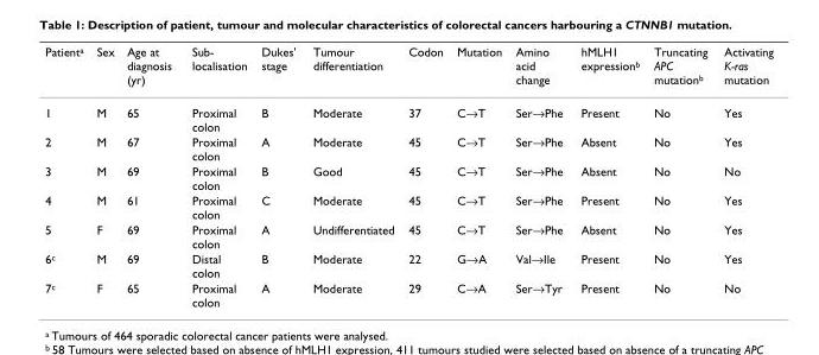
<table><thead><tr><td>Patienta</td><td>Sex</td><td>Age at diagnosis (yr)</td><td>Sub- localisation</td><td>Dukes&#x27; stage</td><td>Tumour differentiation</td><td>Codon</td><td>Mutation</td><td>Amino acid change</td><td>hMLH1 expressionb</td><td>Truncating APC mutationb</td><td>Activating K-ras mutation</td></tr></thead><tbody><tr><td>1</td><td>M</td><td>65</td><td>Proximal colon</td><td>B</td><td>Moderate</td><td>37</td><td>C→T</td><td>Ser→Phe</td><td>Present</td><td>No</td><td>Yes</td></tr><tr><td>2</td><td>M</td><td>67</td><td>Proximal colon</td><td>A</td><td>Moderate</td><td>45</td><td>C→T</td><td>Ser→Phe</td><td>Absent</td><td>No</td><td>Yes</td></tr><tr><td>3</td><td>M</td><td>69</td><td>Proximal colon</td><td>B</td><td>Good</td><td>45</td><td>C→T</td><td>Ser→Phe</td><td>Absent</td><td>No</td><td>No</td></tr><tr><td>4</td><td>M</td><td>61</td><td>Proximal colon</td><td>C</td><td>Moderate</td><td>45</td><td>C→T</td><td>Ser→Phe</td><td>Present</td><td>No</td><td>Yes</td></tr><tr><td>5</td><td>F</td><td>69</td><td>Proximal colon</td><td>A</td><td>Undifferentiated</td><td>45</td><td>C→T</td><td>Ser→Phe</td><td>Absent</td><td>No</td><td>Yes</td></tr><tr><td>6c</td><td>M</td><td>69</td><td>Distal colon</td><td>B</td><td>Moderate</td><td>22</td><td>G→A</td><td>Val→Ile</td><td>Present</td><td>No</td><td>Yes</td></tr><tr><td>7c</td><td>F</td><td>65</td><td>Proximal colon</td><td>A</td><td>Moderate</td><td>29</td><td>C→A</td><td>Ser→Tyr</td><td>Present</td><td>No</td><td>No</td></tr></tbody></table>